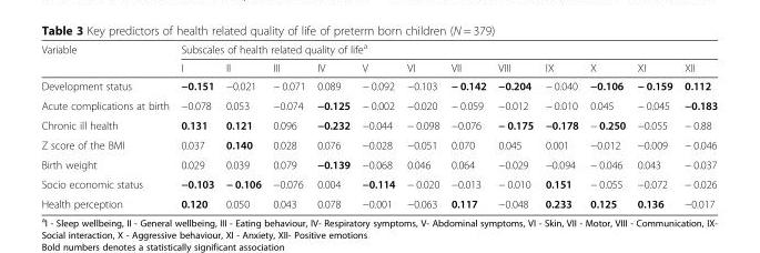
<table><thead><tr><td rowspan="2">Variable</td><td colspan="12">Subscales of health related quality of life<sup>a</sup></td></tr><tr><td>I</td><td>II</td><td>III</td><td>IV</td><td>V</td><td>VI</td><td>VII</td><td>VIII</td><td>IX</td><td>X</td><td>XI</td><td>XII</td></tr></thead><tbody><tr><td>Development status</td><td>−0.151</td><td>−0.021</td><td>− 0.071</td><td>0.089</td><td>− 0.092</td><td>−0.103</td><td>− 0.142</td><td>−0.204</td><td>− 0.040</td><td>−0.106</td><td>− 0.159</td><td>0.112</td></tr><tr><td>Acute complications at birth</td><td>−0.078</td><td>0.053</td><td>−0.074</td><td>−0.125</td><td>− 0.002</td><td>−0.020</td><td>− 0.059</td><td>−0.012</td><td>− 0.010</td><td>0.045</td><td>− 0.045</td><td>−0.183</td></tr><tr><td>Chronic ill health</td><td>0.131</td><td>0.121</td><td>0.096</td><td>−0.232</td><td>−0.044</td><td>− 0.098</td><td>−0.076</td><td>− 0.175</td><td>−0.178</td><td>− 0.250</td><td>−0.055</td><td>− 0.88</td></tr><tr><td>Z score of the BMI</td><td>0.037</td><td>0.140</td><td>0.028</td><td>0.076</td><td>−0.028</td><td>−0.051</td><td>0.070</td><td>0.045</td><td>0.001</td><td>−0.012</td><td>−0.009</td><td>− 0.046</td></tr><tr><td>Birth weight</td><td>0.029</td><td>0.039</td><td>0.079</td><td>−0.139</td><td>−0.068</td><td>0.046</td><td>0.064</td><td>−0.029</td><td>−0.094</td><td>− 0.046</td><td>0.043</td><td>− 0.037</td></tr><tr><td>Socio economic status</td><td>−0.103</td><td>− 0.106</td><td>−0.076</td><td>0.004</td><td>−0.114</td><td>− 0.020</td><td>−0.013</td><td>− 0.010</td><td>0.151</td><td>− 0.055</td><td>−0.072</td><td>− 0.026</td></tr><tr><td>Health perception</td><td>0.120</td><td>0.050</td><td>0.043</td><td>0.078</td><td>−0.001</td><td>−0.063</td><td>0.117</td><td>−0.048</td><td>0.233</td><td>0.125</td><td>0.136</td><td>−0.017</td></tr></tbody></table>